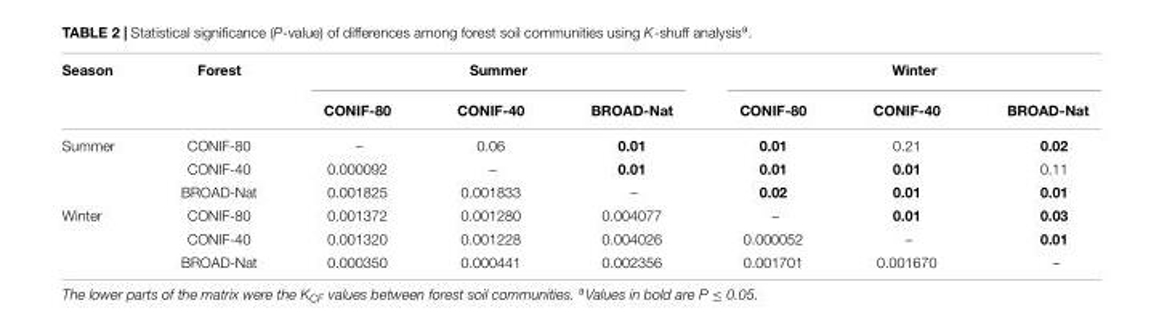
<table><thead><tr><td rowspan="2">Season</td><td rowspan="2">Forest</td><td colspan="3">Summer</td><td colspan="3">Winter</td></tr><tr><td>CONIF-80</td><td>CONIF-40</td><td>BROAD-Nat</td><td>CONIF-80</td><td>CONIF-40</td><td>BROAD-Nat</td></tr></thead><tbody><tr><td rowspan="3">Summer</td><td>CONIF-80</td><td>–</td><td>0.06</td><td>0.01</td><td>0.01</td><td>0.21</td><td>0.02</td></tr><tr><td>CONIF-40</td><td>0.000092</td><td>–</td><td>0.01</td><td>0.01</td><td>0.01</td><td>0.11</td></tr><tr><td>BROAD-Nat</td><td>0.001825</td><td>0.001833</td><td>–</td><td>0.02</td><td>0.01</td><td>0.01</td></tr><tr><td rowspan="3">Winter</td><td>CONIF-80</td><td>0.001372</td><td>0.001280</td><td>0.004077</td><td>–</td><td>0.01</td><td>0.03</td></tr><tr><td>CONIF-40</td><td>0.001320</td><td>0.001228</td><td>0.004026</td><td>0.000052</td><td>–</td><td>0.01</td></tr><tr><td>BROAD-Nat</td><td>0.000350</td><td>0.000441</td><td>0.002356</td><td>0.001701</td><td>0.001670</td><td>–</td></tr></tbody></table>